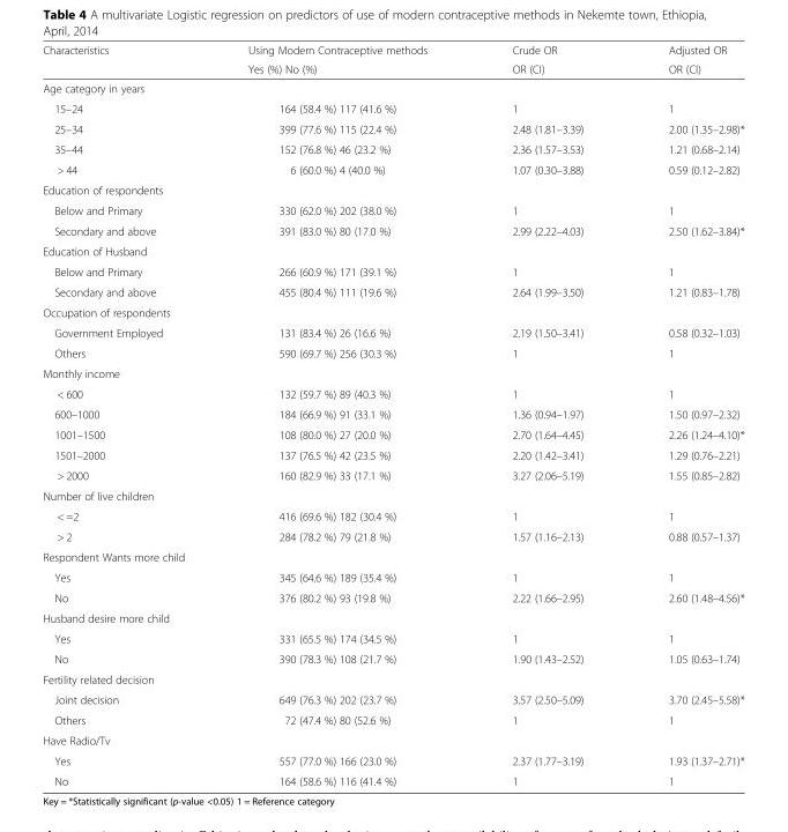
<table><thead><tr><td rowspan="2">Characteristics</td><td rowspan="2">Using Modern Contraceptive methods Yes (%) No (%)</td><td rowspan="2">Crude OR OR (CI)</td><td rowspan="2">Adjusted OR OR (CI)</td></tr><tr></tr></thead><tbody><tr><td colspan="4">Age category in years</td></tr><tr><td>15–24</td><td>164 (58.4 %) 117 (41.6 %)</td><td>1</td><td>1</td></tr><tr><td>25–34</td><td>399 (77.6 %) 115 (22.4 %)</td><td>2.48 (1.81–3.39)</td><td>2.00 (1.35–2.98)*</td></tr><tr><td>35–44</td><td>152 (76.8 %) 46 (23.2 %)</td><td>2.36 (1.57–3.53)</td><td>1.21 (0.68–2.14)</td></tr><tr><td>&gt; 44</td><td>6 (60.0 %) 4 (40.0 %)</td><td>1.07 (0.30–3.88)</td><td>0.59 (0.12–2.82)</td></tr><tr><td colspan="4">Education of respondents</td></tr><tr><td>Below and Primary</td><td>330 (62.0 %) 202 (38.0 %)</td><td>1</td><td>1</td></tr><tr><td>Secondary and above</td><td>391 (83.0 %) 80 (17.0 %)</td><td>2.99 (2.22–4.03)</td><td>2.50 (1.62–3.84)*</td></tr><tr><td colspan="4">Education of Husband</td></tr><tr><td>Below and Primary</td><td>266 (60.9 %) 171 (39.1 %)</td><td>1</td><td>1</td></tr><tr><td>Secondary and above</td><td>455 (80.4 %) 111 (19.6 %)</td><td>2.64 (1.99–3.50)</td><td>1.21 (0.83–1.78)</td></tr><tr><td colspan="4">Occupation of respondents</td></tr><tr><td>Government Employed</td><td>131 (83.4 %) 26 (16.6 %)</td><td>2.19 (1.50–3.41)</td><td>0.58 (0.32–1.03)</td></tr><tr><td>Others</td><td>590 (69.7 %) 256 (30.3 %)</td><td>1</td><td>1</td></tr><tr><td colspan="4">Monthly income</td></tr><tr><td>&lt; 600</td><td>132 (59.7 %) 89 (40.3 %)</td><td>1</td><td>1</td></tr><tr><td>600–1000</td><td>184 (66.9 %) 91 (33.1 %)</td><td>1.36 (0.94–1.97)</td><td>1.50 (0.97–2.32)</td></tr><tr><td>1001–1500</td><td>108 (80.0 %) 27 (20.0 %)</td><td>2.70 (1.64–4.45)</td><td>2.26 (1.24–4.10)*</td></tr><tr><td>1501–2000</td><td>137 (76.5 %) 42 (23.5 %)</td><td>2.20 (1.42–3.41)</td><td>1.29 (0.76–2.21)</td></tr><tr><td>&gt; 2000</td><td>160 (82.9 %) 33 (17.1 %)</td><td>3.27 (2.06–5.19)</td><td>1.55 (0.85–2.82)</td></tr><tr><td colspan="4">Number of live children</td></tr><tr><td>&lt; =2</td><td>416 (69.6 %) 182 (30.4 %)</td><td>1</td><td>1</td></tr><tr><td>&gt; 2</td><td>284 (78.2 %) 79 (21.8 %)</td><td>1.57 (1.16–2.13)</td><td>0.88 (0.57–1.37)</td></tr><tr><td colspan="4">Respondent Wants more child</td></tr><tr><td>Yes</td><td>345 (64.6 %) 189 (35.4 %)</td><td>1</td><td>1</td></tr><tr><td>No</td><td>376 (80.2 %) 93 (19.8 %)</td><td>2.22 (1.66–2.95)</td><td>2.60 (1.48–4.56)*</td></tr><tr><td colspan="4">Husband desire more child</td></tr><tr><td>Yes</td><td>331 (65.5 %) 174 (34.5 %)</td><td>1</td><td>1</td></tr><tr><td>No</td><td>390 (78.3 %) 108 (21.7 %)</td><td>1.90 (1.43–2.52)</td><td>1.05 (0.63–1.74)</td></tr><tr><td colspan="4">Fertility related decision</td></tr><tr><td>Joint decision</td><td>649 (76.3 %) 202 (23.7 %)</td><td>3.57 (2.50–5.09)</td><td>3.70 (2.45–5.58)*</td></tr><tr><td>Others</td><td>72 (47.4 %) 80 (52.6 %)</td><td>1</td><td>1</td></tr><tr><td colspan="4">Have Radio/Tv</td></tr><tr><td>Yes</td><td>557 (77.0 %) 166 (23.0 %)</td><td>2.37 (1.77–3.19)</td><td>1.93 (1.37–2.71)*</td></tr><tr><td>No</td><td>164 (58.6 %) 116 (41.4 %)</td><td>1</td><td>1</td></tr></tbody></table>